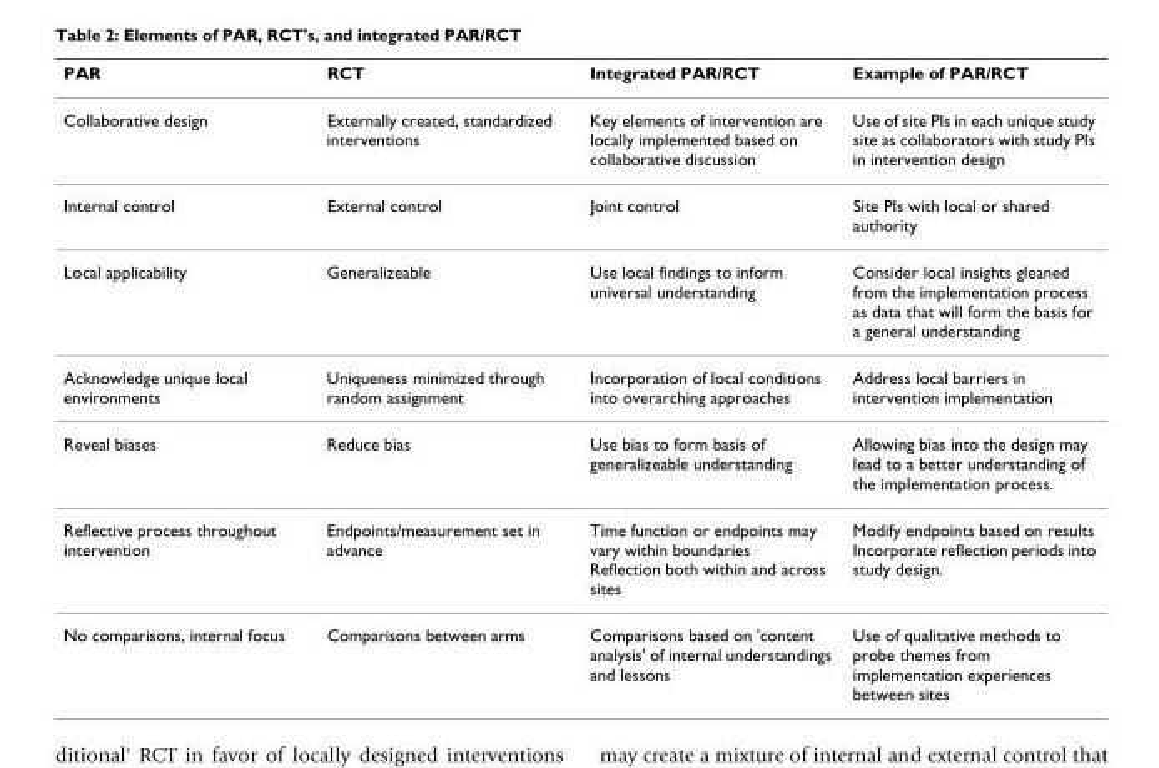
<table><thead><tr><td>PAR</td><td>RCT</td><td>Integrated PAR/RCT</td><td>Example of PAR/RCT</td></tr></thead><tbody><tr><td>Collaborative design</td><td>Externally created, standardized interventions</td><td>Key elements of intervention are locally implemented based on collaborative discussion</td><td>Use of site PIs in each unique study site as collaborators with study PIs in intervention design</td></tr><tr><td>Internal control</td><td>External control</td><td>Joint control</td><td>Site PIs with local or shared authority</td></tr><tr><td>Local applicability</td><td>Generalizeable</td><td>Use local findings to inform universal understanding</td><td>Consider local insights gleaned from the implementation process as data that will form the basis for a general understanding</td></tr><tr><td>Acknowledge unique local environments</td><td>Uniqueness minimized through random assignment</td><td>Incorporation of local conditions into overarching approaches</td><td>Address local barriers in intervention implementation</td></tr><tr><td>Reveal biases</td><td>Reduce bias</td><td>Use bias to form basis of generalizeable understanding</td><td>Allowing bias into the design may lead to a better understanding of the implementation process.</td></tr><tr><td>Reflective process throughout intervention</td><td>Endpoints/measurement set in advance</td><td>Time function or endpoints may vary within boundaries Reflection both within and across sites</td><td>Modify endpoints based on results Incorporate reflection periods into study design.</td></tr><tr><td>No comparisons, internal focus</td><td>Comparisons between arms</td><td>Comparisons based on &#x27;content analysis&#x27; of internal understandings and lessons</td><td>Use of qualitative methods to probe themes from implementation experiences between sites</td></tr></tbody></table>